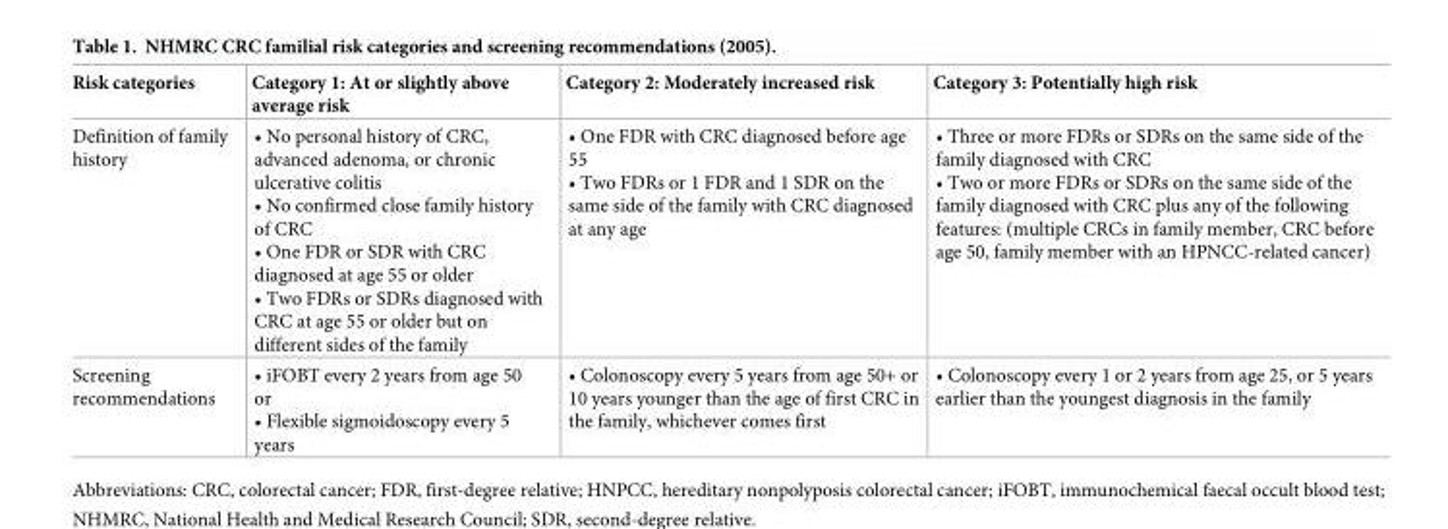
<table><thead><tr><td>Risk categories</td><td>Category 1: At or slightly above average risk</td><td>Category 2: Moderately increased risk</td><td>Category 3: Potentially high risk</td></tr></thead><tbody><tr><td>Definition of family history</td><td>• No personal history of CRC, advanced adenoma, or chronic ulcerative colitis • No confirmed close family history of CRC • One FDR or SDR with CRC diagnosed at age 55 or older • Two FDRs or SDRs diagnosed with CRC at age 55 or older but on different sides of the family</td><td>• One FDR with CRC diagnosed before age 55 • Two FDRs or 1 FDR and 1 SDR on the same side of the family with CRC diagnosed at any age</td><td>• Three or more FDRs or SDRs on the same side of the family diagnosed with CRC • Two or more FDRs or SDRs on the same side of the family diagnosed with CRC plus any of the following features: (multiple CRCs in family member, CRC before age 50, family member with an HPNCC-related cancer)</td></tr><tr><td>Screening recommendations</td><td>• iFOBT every 2 years from age 50 or • Flexible sigmoidoscopy every 5 years</td><td>• Colonoscopy every 5 years from age 50+ or 10 years younger than the age of first CRC in the family, whichever comes first</td><td>• Colonoscopy every 1 or 2 years from age 25, or 5 years earlier than the youngest diagnosis in the family</td></tr></tbody></table>